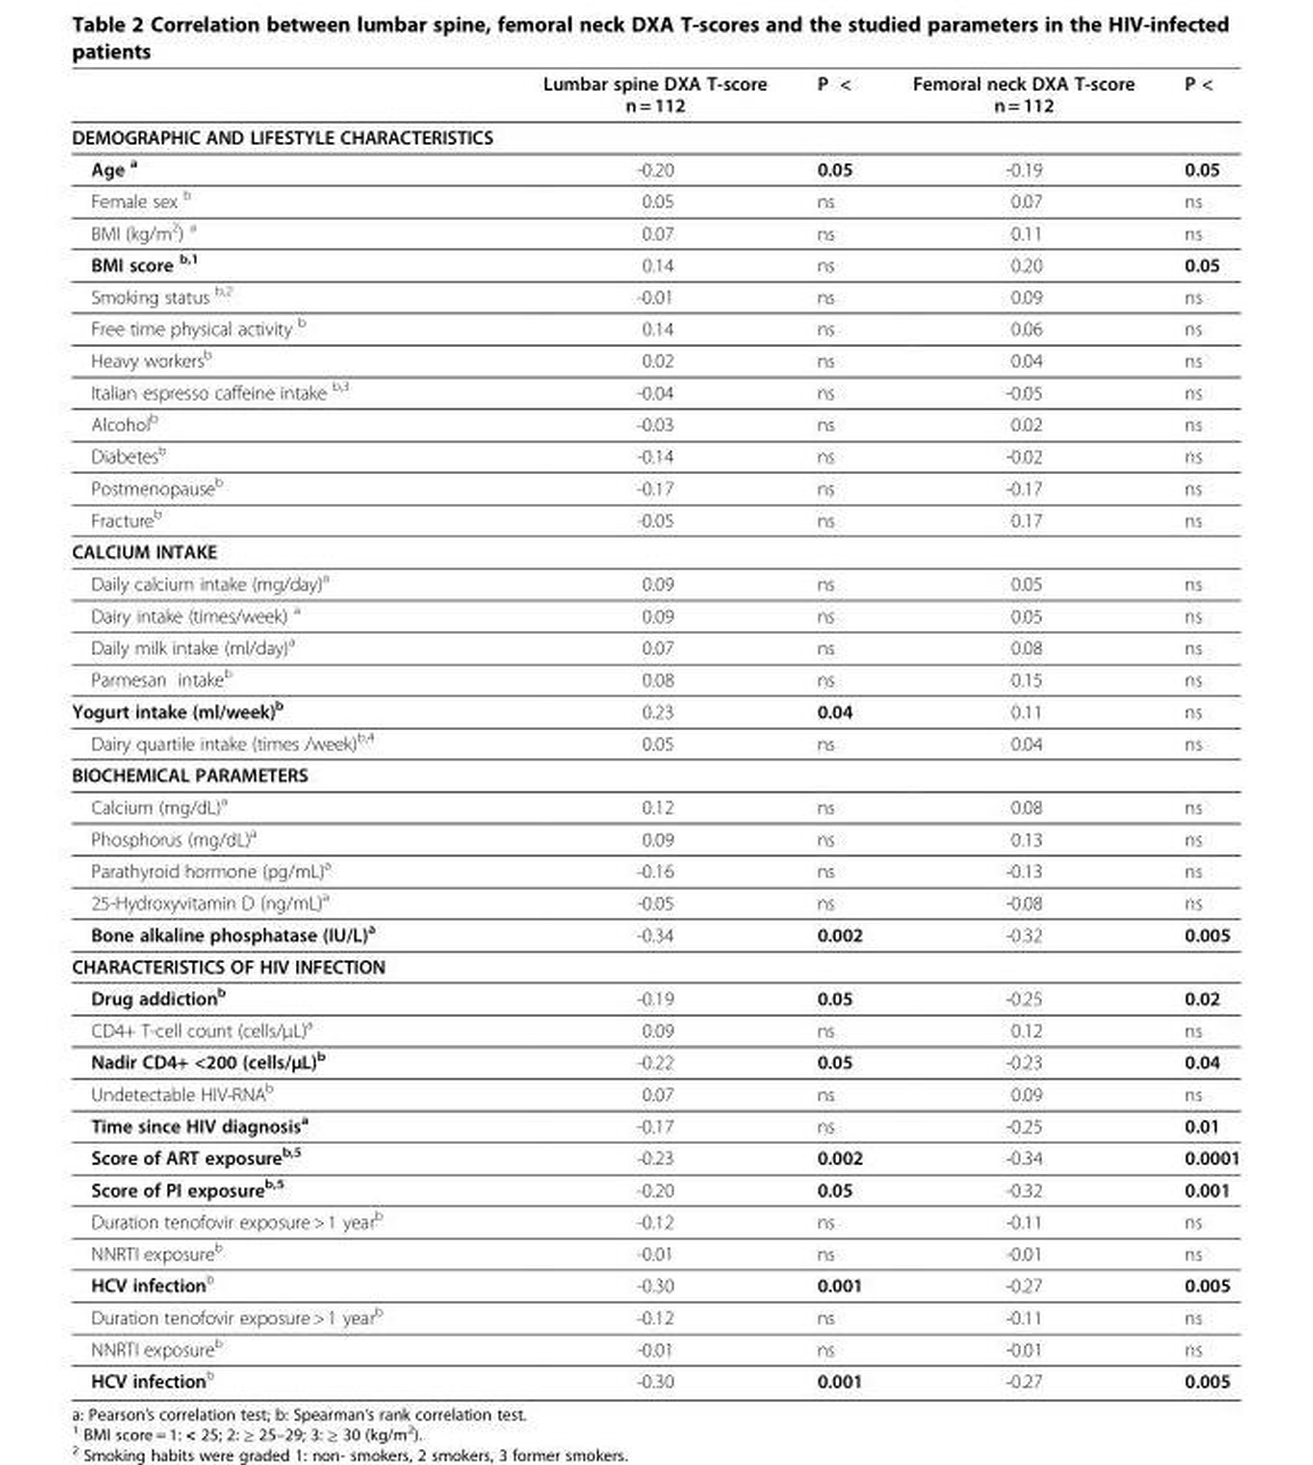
<table><thead><tr><td></td><td>Lumbar spine DXA T-score n = 112</td><td>P &lt;</td><td>Femoral neck DXA T-score n = 112</td><td>P &lt;</td></tr></thead><tbody><tr><td colspan="5">DEMOGRAPHIC AND LIFESTYLE CHARACTERISTICS</td></tr><tr><td>Age <sup>a</sup></td><td>-0.20</td><td>0.05</td><td>-0.19</td><td>0.05</td></tr><tr><td>Female sex <sup>b</sup></td><td>0.05</td><td>ns</td><td>0.07</td><td>ns</td></tr><tr><td>BMI (kg/m<sup>2</sup>) <sup>a</sup></td><td>0.07</td><td>ns</td><td>0.11</td><td>ns</td></tr><tr><td>BMI score <sup>b,1</sup></td><td>0.14</td><td>ns</td><td>0.20</td><td>0.05</td></tr><tr><td>Smoking status <sup>b,2</sup></td><td>-0.01</td><td>ns</td><td>0.09</td><td>ns</td></tr><tr><td>Free time physical activity <sup>b</sup></td><td>0.14</td><td>ns</td><td>0.06</td><td>ns</td></tr><tr><td>Heavy workers<sup>b</sup></td><td>0.02</td><td>ns</td><td>0.04</td><td>ns</td></tr><tr><td>Italian espresso caffeine intake <sup>b,3</sup></td><td>-0.04</td><td>ns</td><td>-0.05</td><td>ns</td></tr><tr><td>Alcohol<sup>b</sup></td><td>-0.03</td><td>ns</td><td>0.02</td><td>ns</td></tr><tr><td>Diabetes<sup>b</sup></td><td>-0.14</td><td>ns</td><td>-0.02</td><td>ns</td></tr><tr><td>Postmenopause<sup>b</sup></td><td>-0.17</td><td>ns</td><td>-0.17</td><td>ns</td></tr><tr><td>Fracture<sup>b</sup></td><td>-0.05</td><td>ns</td><td>0.17</td><td>ns</td></tr><tr><td colspan="5">CALCIUM INTAKE</td></tr><tr><td>Daily calcium intake (mg/day)<sup>a</sup></td><td>0.09</td><td>ns</td><td>0.05</td><td>ns</td></tr><tr><td>Dairy intake (times/week) <sup>a</sup></td><td>0.09</td><td>ns</td><td>0.05</td><td>ns</td></tr><tr><td>Daily milk intake (ml/day)<sup>a</sup></td><td>0.07</td><td>ns</td><td>0.08</td><td>ns</td></tr><tr><td>Parmesan intake<sup>b</sup></td><td>0.08</td><td>ns</td><td>0.15</td><td>ns</td></tr><tr><td>Yogurt intake (ml/week)<sup>b</sup></td><td>0.23</td><td>0.04</td><td>0.11</td><td>ns</td></tr><tr><td>Dairy quartile intake (times /week)<sup>b,4</sup></td><td>0.05</td><td>ns</td><td>0.04</td><td>ns</td></tr><tr><td colspan="5">BIOCHEMICAL PARAMETERS</td></tr><tr><td>Calcium (mg/dL)<sup>a</sup></td><td>0.12</td><td>ns</td><td>0.08</td><td>ns</td></tr><tr><td>Phosphorus (mg/dL)<sup>a</sup></td><td>0.09</td><td>ns</td><td>0.13</td><td>ns</td></tr><tr><td>Parathyroid hormone (pg/mL)<sup>a</sup></td><td>-0.16</td><td>ns</td><td>-0.13</td><td>ns</td></tr><tr><td>25-Hydroxyvitamin D (ng/mL)<sup>a</sup></td><td>-0.05</td><td>ns</td><td>-0.08</td><td>ns</td></tr><tr><td>Bone alkaline phosphatase (IU/L)<sup>a</sup></td><td>-0.34</td><td>0.002</td><td>-0.32</td><td>0.005</td></tr><tr><td colspan="5">CHARACTERISTICS OF HIV INFECTION</td></tr><tr><td>Drug addiction<sup>b</sup></td><td>-0.19</td><td>0.05</td><td>-0.25</td><td>0.02</td></tr><tr><td>CD4+ T-cell count (cells/μL)<sup>a</sup></td><td>0.09</td><td>ns</td><td>0.12</td><td>ns</td></tr><tr><td>Nadir CD4+ &lt;200 (cells/μL)<sup>b</sup></td><td>-0.22</td><td>0.05</td><td>-0.23</td><td>0.04</td></tr><tr><td>Undetectable HIV-RNA<sup>b</sup></td><td>0.07</td><td>ns</td><td>0.09</td><td>ns</td></tr><tr><td>Time since HIV diagnosis<sup>a</sup></td><td>-0.17</td><td>ns</td><td>-0.25</td><td>0.01</td></tr><tr><td>Score of ART exposure<sup>b,5</sup></td><td>-0.23</td><td>0.002</td><td>-0.34</td><td>0.0001</td></tr><tr><td>Score of PI exposure<sup>b,5</sup></td><td>-0.20</td><td>0.05</td><td>-0.32</td><td>0.001</td></tr><tr><td>Duration tenofovir exposure &gt; 1 year<sup>b</sup></td><td>-0.12</td><td>ns</td><td>-0.11</td><td>ns</td></tr><tr><td>NNRTI exposure<sup>b</sup></td><td>-0.01</td><td>ns</td><td>-0.01</td><td>ns</td></tr><tr><td>HCV infection<sup>b</sup></td><td>-0.30</td><td>0.001</td><td>-0.27</td><td>0.005</td></tr><tr><td>Duration tenofovir exposure &gt; 1 year<sup>b</sup></td><td>-0.12</td><td>ns</td><td>-0.11</td><td>ns</td></tr><tr><td>NNRTI exposure<sup>b</sup></td><td>-0.01</td><td>ns</td><td>-0.01</td><td>ns</td></tr><tr><td>HCV infection<sup>b</sup></td><td>-0.30</td><td>0.001</td><td>-0.27</td><td>0.005</td></tr></tbody></table>